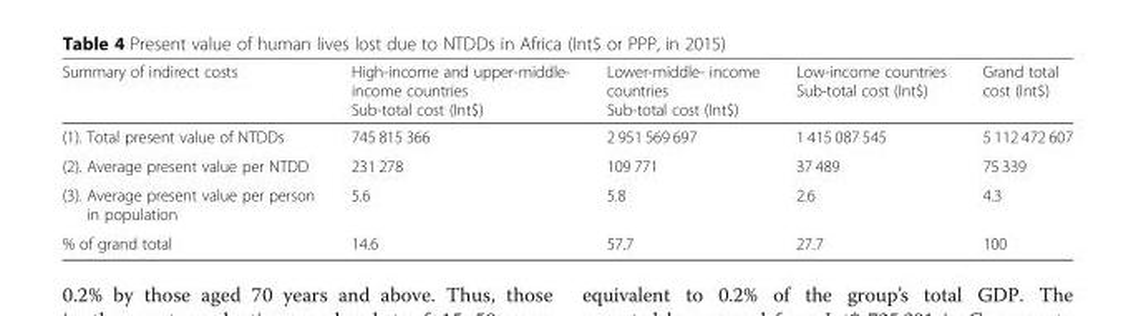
<table><thead><tr><td>Summary of indirect costs</td><td>High-income and upper-middle- income countries Sub-total cost (Int$)</td><td>Lower-middle- income countries Sub-total cost (Int$)</td><td>Low-income countries Sub-total cost (Int$)</td><td>Grand total cost (Int$)</td></tr></thead><tbody><tr><td>(1). Total present value of NTDDs</td><td>745 815 366</td><td>2 951 569 697</td><td>1 415 087 545</td><td>5 112 472 607</td></tr><tr><td>(2). Average present value per NTDD</td><td>231 278</td><td>109 771</td><td>37 489</td><td>75 339</td></tr><tr><td>(3). Average present value per person in population</td><td>5.6</td><td>5.8</td><td>2.6</td><td>4.3</td></tr><tr><td>% of grand total</td><td>14.6</td><td>57.7</td><td>27.7</td><td>100</td></tr></tbody></table>